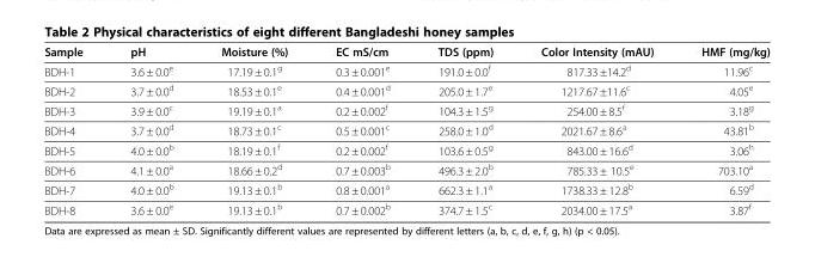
<table><thead><tr><td>Sample</td><td>pH</td><td>Moisture (%)</td><td>EC mS/cm</td><td>TDS (ppm)</td><td>Color Intensity (mAU)</td><td>HMF (mg/kg)</td></tr></thead><tbody><tr><td>BDH-1</td><td>3.6 ± 0.0<sup>e</sup></td><td>17.19 ± 0.1<sup>g</sup></td><td>0.3 ± 0.001<sup>e</sup></td><td>191.0 ± 0.0<sup>f</sup></td><td>817.33 ±14.2<sup>d</sup></td><td>11.96<sup>c</sup></td></tr><tr><td>BDH-2</td><td>3.7 ± 0.0<sup>d</sup></td><td>18.53 ± 0.1<sup>e</sup></td><td>0.4 ± 0.001<sup>d</sup></td><td>205.0 ± 1.7<sup>e</sup></td><td>1217.67 ±11.6<sup>c</sup></td><td>4.05<sup>e</sup></td></tr><tr><td>BDH-3</td><td>3.9 ± 0.0<sup>c</sup></td><td>19.19 ± 0.1<sup>a</sup></td><td>0.2 ± 0.002<sup>f</sup></td><td>104.3 ± 1.5<sup>g</sup></td><td>254.00 ± 8.5<sup>f</sup></td><td>3.18<sup>g</sup></td></tr><tr><td>BDH-4</td><td>3.7 ± 0.0<sup>d</sup></td><td>18.73 ± 0.1<sup>c</sup></td><td>0.5 ± 0.001<sup>c</sup></td><td>258.0 ± 1.0<sup>d</sup></td><td>2021.67 ± 8.6<sup>a</sup></td><td>43.81<sup>b</sup></td></tr><tr><td>BDH-5</td><td>4.0 ± 0.0<sup>b</sup></td><td>18.19 ± 0.1<sup>f</sup></td><td>0.2 ± 0.002<sup>f</sup></td><td>103.6 ± 0.5<sup>g</sup></td><td>843.00 ± 16.6<sup>d</sup></td><td>3.06<sup>h</sup></td></tr><tr><td>BDH-6</td><td>4.1 ± 0.0<sup>a</sup></td><td>18.66 ± 0.2<sup>d</sup></td><td>0.7 ± 0.003<sup>b</sup></td><td>496.3 ± 2.0<sup>b</sup></td><td>785.33 ± 10.5<sup>e</sup></td><td>703.10<sup>a</sup></td></tr><tr><td>BDH-7</td><td>4.0 ± 0.0<sup>b</sup></td><td>19.13 ± 0.1<sup>b</sup></td><td>0.8 ± 0.001<sup>a</sup></td><td>662.3 ± 1.1<sup>a</sup></td><td>1738.33 ± 12.8<sup>b</sup></td><td>6.59<sup>d</sup></td></tr><tr><td>BDH-8</td><td>3.6 ± 0.0<sup>e</sup></td><td>19.13 ± 0.1<sup>b</sup></td><td>0.7 ± 0.002<sup>b</sup></td><td>374.7 ± 1.5<sup>c</sup></td><td>2034.00 ± 17.5<sup>a</sup></td><td>3.87<sup>f</sup></td></tr></tbody></table>